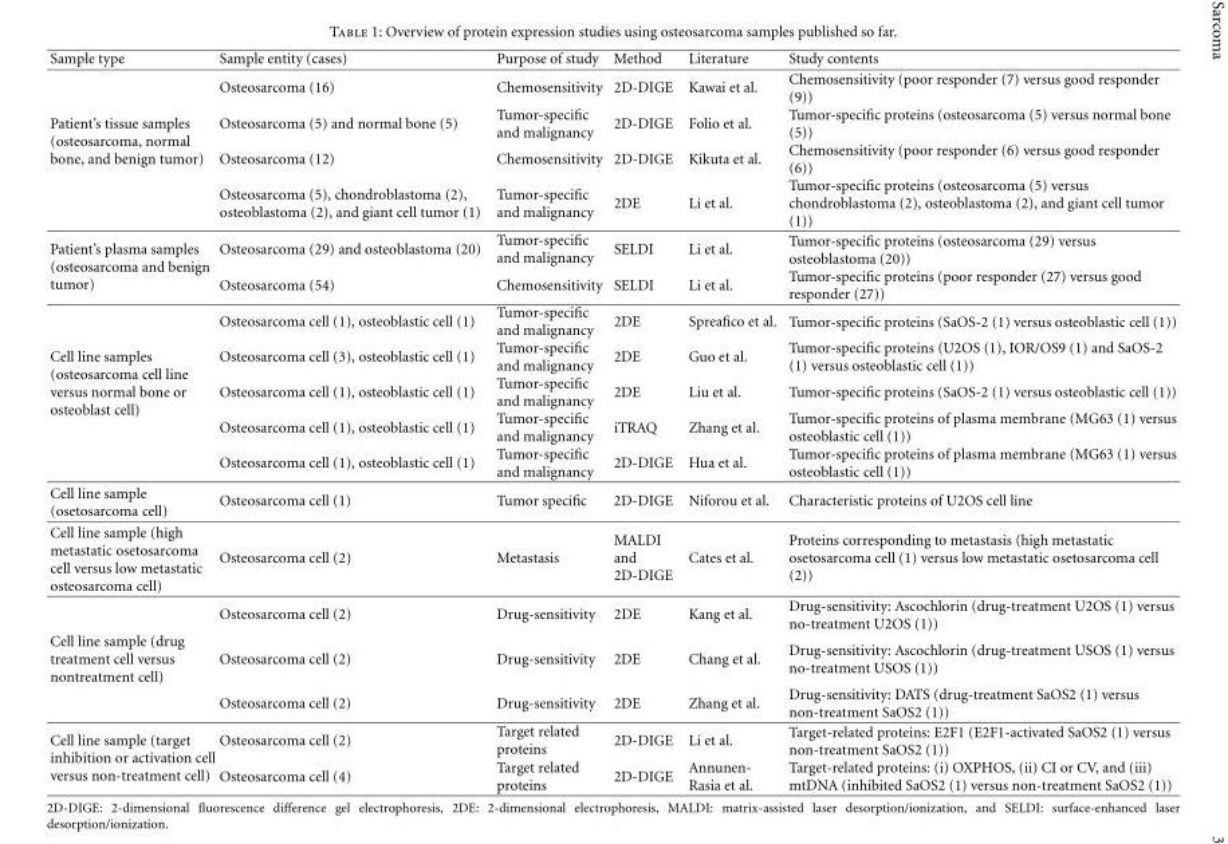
<table><thead><tr><td>Sample type</td><td>Sample entity (cases)</td><td>Purpose of study</td><td>Method</td><td>Literature</td><td>Study contents</td></tr></thead><tbody><tr><td></td><td>Osteosarcoma (16)</td><td>Chemosensitivity</td><td>2D-DIGE</td><td>Kawai et al.</td><td>Chemosensitivity (poor responder (7) versus good responder (9))</td></tr><tr><td rowspan="3">Patient’s tissue samples (osteosarcoma, normal bone, and benign tumor)</td><td>Osteosarcoma (5) and normal bone (5)</td><td>Tumor-specific and malignancy</td><td>2D-DIGE</td><td>Folio et al.</td><td>Tumor-specific proteins (osteosarcoma (5) versus normal bone (5))</td></tr><tr><td>Osteosarcoma (12)</td><td>Chemosensitivity</td><td>2D-DIGE</td><td>Kikuta et al.</td><td>Chemosensitivity (poor responder (6) versus good responder (6))</td></tr><tr><td>Osteosarcoma (5), chondroblastoma (2), osteoblastoma (2), and giant cell tumor (1)</td><td>Tumor-specific and malignancy</td><td>2DE</td><td>Li et al.</td><td>Tumor-specific proteins (osteosarcoma (5) versus chondroblastoma (2), osteoblastoma (2), and giant cell tumor (1))</td></tr><tr><td rowspan="3">Patient’s plasma samples (osteosarcoma and benign tumor)</td><td>Osteosarcoma (29) and osteoblastoma (20)</td><td>Tumor-specific and malignancy</td><td>SELDI</td><td>Li et al.</td><td>Tumor-specific proteins (osteosarcoma (29) versus osteoblastoma (20))</td></tr><tr><td>Osteosarcoma (54)</td><td>Chemosensitivity</td><td>SELDI</td><td>Li et al.</td><td>Tumor-specific proteins (poor responder (27) versus good responder (27))</td></tr><tr><td>Osteosarcoma cell (1), osteoblastic cell (1)</td><td>Tumor-specific and malignancy</td><td>2DE</td><td>Spreafico et al.</td><td>Tumor-specific proteins (SaOS-2 (1) versus osteoblastic cell (1))</td></tr><tr><td rowspan="4">Cell line samples (osteosarcoma cell line versus normal bone or osteoblast cell)</td><td>Osteosarcoma cell (3), osteoblastic cell (1)</td><td>Tumor-specific and malignancy</td><td>2DE</td><td>Guo et al.</td><td>Tumor-specific proteins (U2OS (1), IOR/OS9 (1) and SaOS-2 (1) versus osteoblastic cell (1))</td></tr><tr><td>Osteosarcoma cell (1), osteoblastic cell (1)</td><td>Tumor-specific and malignancy</td><td>2DE</td><td>Liu et al.</td><td>Tumor-specific proteins (SaOS-2 (1) versus osteoblastic cell (1))</td></tr><tr><td>Osteosarcoma cell (1), osteoblastic cell (1)</td><td>Tumor-specific and malignancy</td><td>iTRAQ</td><td>Zhang et al.</td><td>Tumor-specific proteins of plasma membrane (MG63 (1) versus osteoblastic cell (1))</td></tr><tr><td>Osteosarcoma cell (1), osteoblastic cell (1)</td><td>Tumor-specific and malignancy</td><td>2D-DIGE</td><td>Hua et al.</td><td>Tumor-specific proteins of plasma membrane (MG63 (1) versus osteoblastic cell (1))</td></tr><tr><td>Cell line sample (osetosarcoma cell)</td><td>Osteosarcoma cell (1)</td><td>Tumor specific</td><td>2D-DIGE</td><td>Niforou et al.</td><td>Characteristic proteins of U2OS cell line</td></tr><tr><td rowspan="2">Cell line sample (high metastatic osetosarcoma cell versus low metastatic osteosarcoma cell)</td><td>Osteosarcoma cell (2)</td><td>Metastasis</td><td>MALDI and 2D-DIGE</td><td>Cates et al.</td><td>Proteins corresponding to metastasis (high metastatic osetosarcoma cell (1) versus low metastatic osetosarcoma cell (2))</td></tr><tr><td>Osteosarcoma cell (2)</td><td>Drug-sensitivity</td><td>2DE</td><td>Kang et al.</td><td>Drug-sensitivity: Ascochlorin (drug-treatment U2OS (1) versus no-treatment U2OS (1))</td></tr><tr><td rowspan="2">Cell line sample (drug treatment cell versus nontreatment cell)</td><td>Osteosarcoma cell (2)</td><td>Drug-sensitivity</td><td>2DE</td><td>Chang et al.</td><td>Drug-sensitivity: Ascochlorin (drug-treatment USOS (1) versus no-treatment USOS (1))</td></tr><tr><td>Osteosarcoma cell (2)</td><td>Drug-sensitivity</td><td>2DE</td><td>Zhang et al.</td><td>Drug-sensitivity: DATS (drug-treatment SaOS2 (1) versus non-treatment SaOS2 (1))</td></tr><tr><td rowspan="2">Cell line sample (target inhibition or activation cell versus non-treatment cell)</td><td>Osteosarcoma cell (2)</td><td>Target related proteins</td><td>2D-DIGE</td><td>Li et al.</td><td>Target-related proteins: E2F1 (E2F1-activated SaOS2 (1) versus non-treatment SaOS2 (1))</td></tr><tr><td>Osteosarcoma cell (4)</td><td>Target related proteins</td><td>2D-DIGE</td><td>Annunen- Rasia et al.</td><td>Target-related proteins: (i) OXPHOS, (ii) CI or CV, and (iii) mtDNA (inhibited SaOS2 (1) versus non-treatment SaOS2 (1))</td></tr></tbody></table>